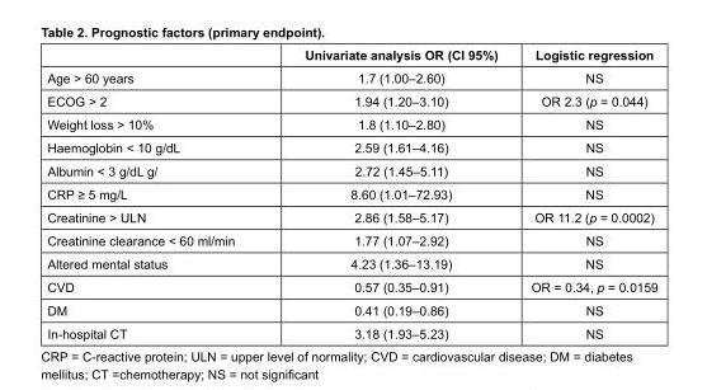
<table><thead><tr><td></td><td>Univariate analysis OR (CI 95%)</td><td>Logistic regression</td></tr></thead><tbody><tr><td>Age &gt; 60 years</td><td>1.7 (1.00–2.60)</td><td>NS</td></tr><tr><td>ECOG &gt; 2</td><td>1.94 (1.20–3.10)</td><td>OR 2.3 (p = 0.044)</td></tr><tr><td>Weight loss &gt; 10%</td><td>1.8 (1.10–2.80)</td><td>NS</td></tr><tr><td>Haemoglobin &lt; 10 g/dL</td><td>2.59 (1.61–4.16)</td><td>NS</td></tr><tr><td>Albumin &lt; 3 g/dL g/</td><td>2.72 (1.45–5.11)</td><td>NS</td></tr><tr><td>CRP ≥ 5 mg/L</td><td>8.60 (1.01–72.93)</td><td>NS</td></tr><tr><td>Creatinine &gt; ULN</td><td>2.86 (1.58–5.17)</td><td>OR 11.2 (p = 0.0002)</td></tr><tr><td>Creatinine clearance &lt; 60 ml/min</td><td>1.77 (1.07–2.92)</td><td>NS</td></tr><tr><td>Altered mental status</td><td>4.23 (1.36–13.19)</td><td>NS</td></tr><tr><td>CVD</td><td>0.57 (0.35–0.91)</td><td>OR = 0.34, p = 0.0159</td></tr><tr><td>DM</td><td>0.41 (0.19–0.86)</td><td>NS</td></tr><tr><td>In-hospital CT</td><td>3.18 (1.93–5.23)</td><td>NS</td></tr></tbody></table>